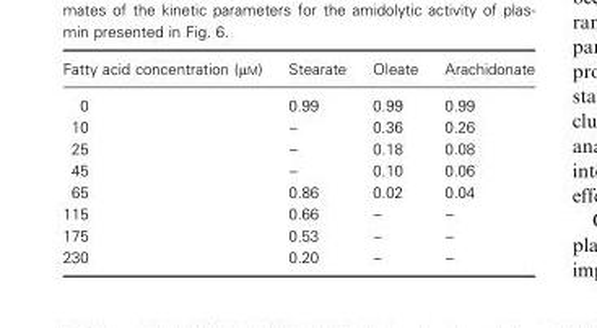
<table><thead><tr><td>Fatty acid concentration (μM)</td><td>Stearate</td><td>Oleate</td><td>Arachidonate</td></tr></thead><tbody><tr><td>0</td><td>0.99</td><td>0.99</td><td>0.99</td></tr><tr><td>10</td><td>–</td><td>0.36</td><td>0.26</td></tr><tr><td>25</td><td>–</td><td>0.18</td><td>0.08</td></tr><tr><td>45</td><td>–</td><td>0.10</td><td>0.06</td></tr><tr><td>65</td><td>0.86</td><td>0.02</td><td>0.04</td></tr><tr><td>115</td><td>0.66</td><td>–</td><td>–</td></tr><tr><td>175</td><td>0.53</td><td>–</td><td>–</td></tr><tr><td>230</td><td>0.20</td><td>–</td><td>–</td></tr></tbody></table>